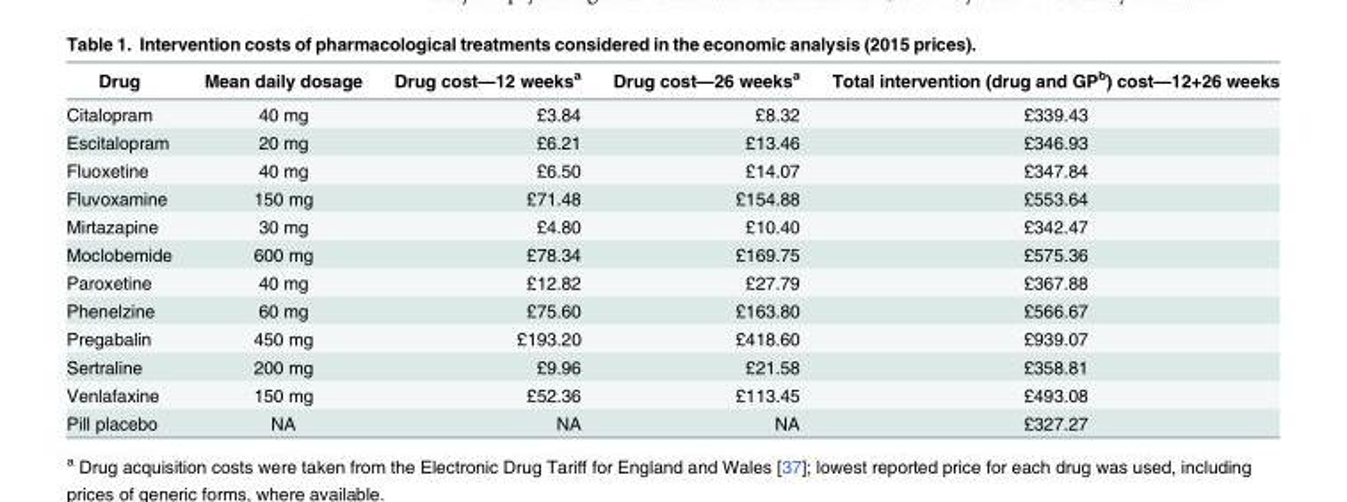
<table><thead><tr><td>Drug</td><td>Mean daily dosage</td><td>Drug cost—12 weeks<sup>a</sup></td><td>Drug cost—26 weeks<sup>a</sup></td><td>Total intervention (drug and GP<sup>b</sup>) cost—12+26 weeks</td></tr></thead><tbody><tr><td>Citalopram</td><td>40 mg</td><td>£3.84</td><td>£8.32</td><td>£339.43</td></tr><tr><td>Escitalopram</td><td>20 mg</td><td>£6.21</td><td>£13.46</td><td>£346.93</td></tr><tr><td>Fluoxetine</td><td>40 mg</td><td>£6.50</td><td>£14.07</td><td>£347.84</td></tr><tr><td>Fluvoxamine</td><td>150 mg</td><td>£71.48</td><td>£154.88</td><td>£553.64</td></tr><tr><td>Mirtazapine</td><td>30 mg</td><td>£4.80</td><td>£10.40</td><td>£342.47</td></tr><tr><td>Moclobemide</td><td>600 mg</td><td>£78.34</td><td>£169.75</td><td>£575.36</td></tr><tr><td>Paroxetine</td><td>40 mg</td><td>£12.82</td><td>£27.79</td><td>£367.88</td></tr><tr><td>Phenelzine</td><td>60 mg</td><td>£75.60</td><td>£163.80</td><td>£566.67</td></tr><tr><td>Pregabalin</td><td>450 mg</td><td>£193.20</td><td>£418.60</td><td>£939.07</td></tr><tr><td>Sertraline</td><td>200 mg</td><td>£9.96</td><td>£21.58</td><td>£358.81</td></tr><tr><td>Venlafaxine</td><td>150 mg</td><td>£52.36</td><td>£113.45</td><td>£493.08</td></tr><tr><td>Pill placebo</td><td>NA</td><td>NA</td><td>NA</td><td>£327.27</td></tr></tbody></table>